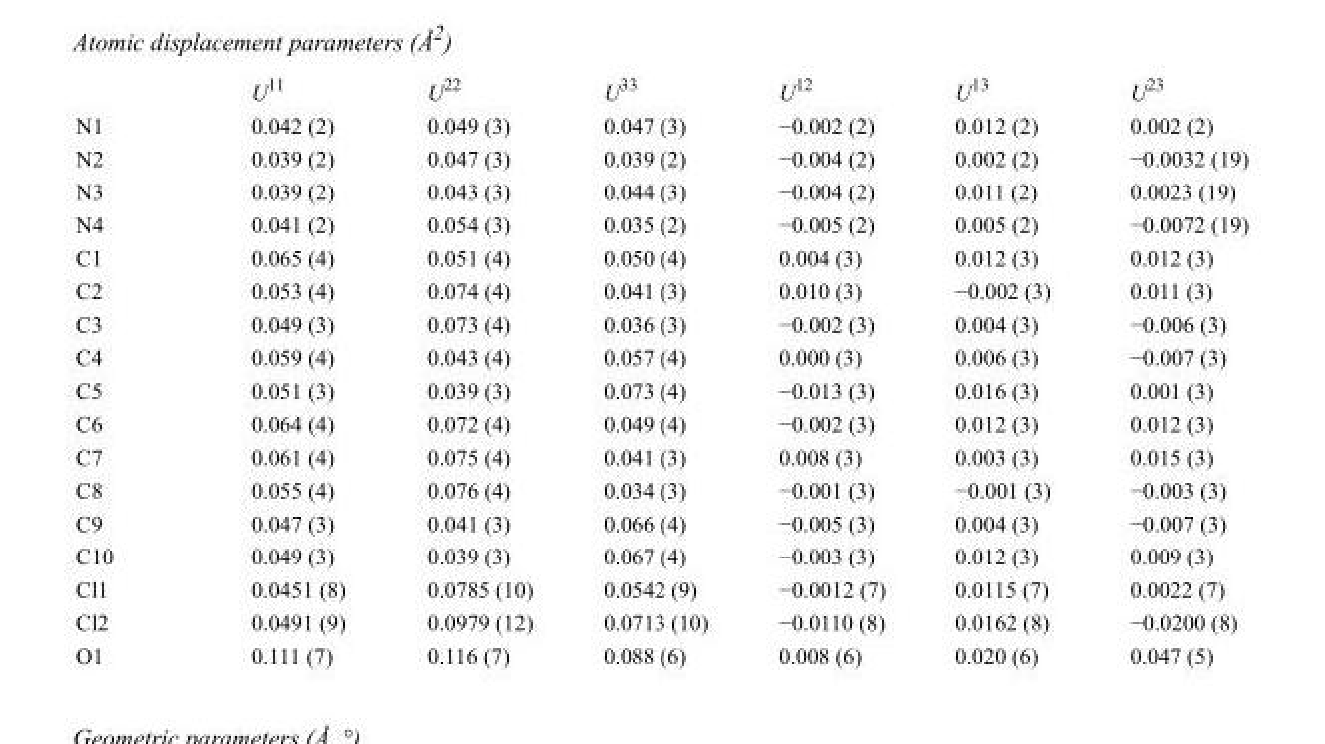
<table><thead><tr><td></td><td>U<sup>11</sup></td><td>U<sup>22</sup></td><td>U<sup>33</sup></td><td>U<sup>12</sup></td><td>U<sup>13</sup></td><td>U<sup>23</sup></td></tr></thead><tbody><tr><td>N1</td><td>0.042 (2)</td><td>0.049 (3)</td><td>0.047 (3)</td><td>−0.002 (2)</td><td>0.012 (2)</td><td>0.002 (2)</td></tr><tr><td>N2</td><td>0.039 (2)</td><td>0.047 (3)</td><td>0.039 (2)</td><td>−0.004 (2)</td><td>0.002 (2)</td><td>−0.0032 (19)</td></tr><tr><td>N3</td><td>0.039 (2)</td><td>0.043 (3)</td><td>0.044 (3)</td><td>−0.004 (2)</td><td>0.011 (2)</td><td>0.0023 (19)</td></tr><tr><td>N4</td><td>0.041 (2)</td><td>0.054 (3)</td><td>0.035 (2)</td><td>−0.005 (2)</td><td>0.005 (2)</td><td>−0.0072 (19)</td></tr><tr><td>C1</td><td>0.065 (4)</td><td>0.051 (4)</td><td>0.050 (4)</td><td>0.004 (3)</td><td>0.012 (3)</td><td>0.012 (3)</td></tr><tr><td>C2</td><td>0.053 (4)</td><td>0.074 (4)</td><td>0.041 (3)</td><td>0.010 (3)</td><td>−0.002 (3)</td><td>0.011 (3)</td></tr><tr><td>C3</td><td>0.049 (3)</td><td>0.073 (4)</td><td>0.036 (3)</td><td>−0.002 (3)</td><td>0.004 (3)</td><td>−0.006 (3)</td></tr><tr><td>C4</td><td>0.059 (4)</td><td>0.043 (4)</td><td>0.057 (4)</td><td>0.000 (3)</td><td>0.006 (3)</td><td>−0.007 (3)</td></tr><tr><td>C5</td><td>0.051 (3)</td><td>0.039 (3)</td><td>0.073 (4)</td><td>−0.013 (3)</td><td>0.016 (3)</td><td>0.001 (3)</td></tr><tr><td>C6</td><td>0.064 (4)</td><td>0.072 (4)</td><td>0.049 (4)</td><td>−0.002 (3)</td><td>0.012 (3)</td><td>0.012 (3)</td></tr><tr><td>C7</td><td>0.061 (4)</td><td>0.075 (4)</td><td>0.041 (3)</td><td>0.008 (3)</td><td>0.003 (3)</td><td>0.015 (3)</td></tr><tr><td>C8</td><td>0.055 (4)</td><td>0.076 (4)</td><td>0.034 (3)</td><td>−0.001 (3)</td><td>−0.001 (3)</td><td>−0.003 (3)</td></tr><tr><td>C9</td><td>0.047 (3)</td><td>0.041 (3)</td><td>0.066 (4)</td><td>−0.005 (3)</td><td>0.004 (3)</td><td>−0.007 (3)</td></tr><tr><td>C10</td><td>0.049 (3)</td><td>0.039 (3)</td><td>0.067 (4)</td><td>−0.003 (3)</td><td>0.012 (3)</td><td>0.009 (3)</td></tr><tr><td>Cl1</td><td>0.0451 (8)</td><td>0.0785 (10)</td><td>0.0542 (9)</td><td>−0.0012 (7)</td><td>0.0115 (7)</td><td>0.0022 (7)</td></tr><tr><td>Cl2</td><td>0.0491 (9)</td><td>0.0979 (12)</td><td>0.0713 (10)</td><td>−0.0110 (8)</td><td>0.0162 (8)</td><td>−0.0200 (8)</td></tr><tr><td>O1</td><td>0.111 (7)</td><td>0.116 (7)</td><td>0.088 (6)</td><td>0.008 (6)</td><td>0.020 (6)</td><td>0.047 (5)</td></tr></tbody></table>